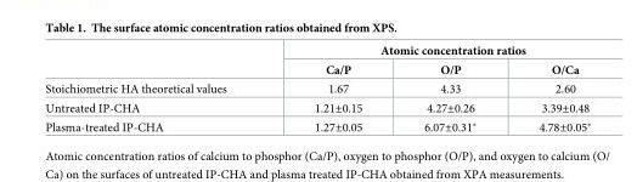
<table><thead><tr><td rowspan="2"></td><td colspan="3">Atomic concentration ratios</td></tr><tr><td>Ca/P</td><td>O/P</td><td>O/Ca</td></tr></thead><tbody><tr><td>Stoichiometric HA theoretical values</td><td>1.67</td><td>4.33</td><td>2.60</td></tr><tr><td>Untreated IP-CHA</td><td>1.21±0.15</td><td>4.27±0.26</td><td>3.39±0.48</td></tr><tr><td>Plasma-treated IP-CHA</td><td>1.27±0.05</td><td>6.07±0.31*</td><td>4.78±0.05*</td></tr></tbody></table>